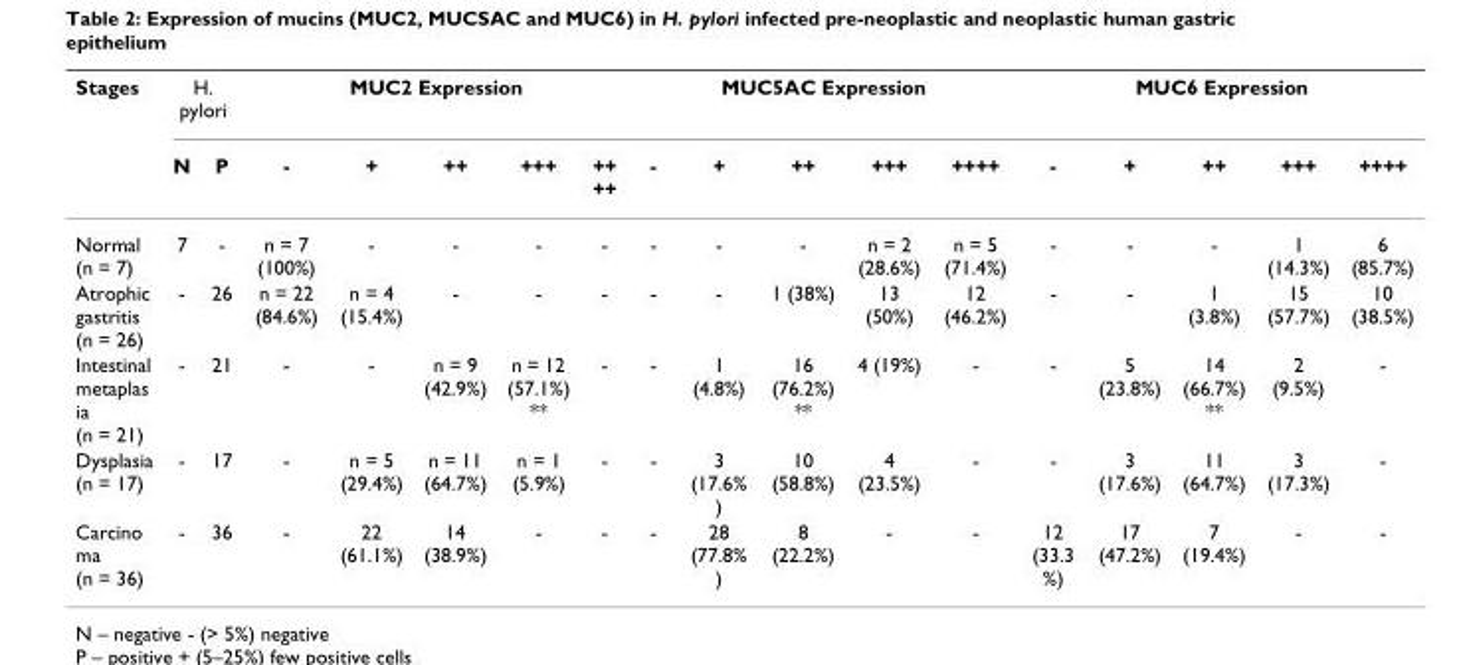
<table><thead><tr><td rowspan="2">Stages</td><td colspan="2">H. pylori</td><td colspan="5">MUC2 Expression</td><td colspan="5">MUC5AC Expression</td><td colspan="5">MUC6 Expression</td></tr><tr><td>N</td><td>P</td><td>-</td><td>+</td><td>++</td><td>+++</td><td>++ ++</td><td>-</td><td>+</td><td>++</td><td>+++</td><td>++++</td><td>-</td><td>+</td><td>++</td><td>+++</td><td>++++</td></tr></thead><tbody><tr><td>Normal (n = 7)</td><td>7</td><td>-</td><td>n = 7 (100%)</td><td>-</td><td>-</td><td>-</td><td>-</td><td>-</td><td>-</td><td>-</td><td>n = 2 (28.6%)</td><td>n = 5 (71.4%)</td><td>-</td><td>-</td><td>-</td><td>1 (14.3%)</td><td>6 (85.7%)</td></tr><tr><td>Atrophic gastritis (n = 26)</td><td>-</td><td>26</td><td>n = 22 (84.6%)</td><td>n = 4 (15.4%)</td><td>-</td><td>-</td><td>-</td><td>-</td><td>-</td><td>1 (38%)</td><td>13 (50%)</td><td>12 (46.2%)</td><td>-</td><td>-</td><td>1 (3.8%)</td><td>15 (57.7%)</td><td>10 (38.5%)</td></tr><tr><td>Intestinal metaplas ia (n = 21)</td><td>-</td><td>21</td><td>-</td><td>-</td><td>n = 9 (42.9%)</td><td>n = 12 (57.1%) **</td><td>-</td><td>-</td><td>1 (4.8%)</td><td>16 (76.2%) **</td><td>4 (19%)</td><td>-</td><td>-</td><td>5 (23.8%)</td><td>14 (66.7%) **</td><td>2 (9.5%)</td><td>-</td></tr><tr><td>Dysplasia (n = 17)</td><td>-</td><td>17</td><td>-</td><td>n = 5 (29.4%)</td><td>n = 11 (64.7%)</td><td>n = 1 (5.9%)</td><td>-</td><td>-</td><td>3 (17.6% )</td><td>10 (58.8%)</td><td>4 (23.5%)</td><td>-</td><td>-</td><td>3 (17.6%)</td><td>11 (64.7%)</td><td>3 (17.3%)</td><td>-</td></tr><tr><td>Carcino ma (n = 36)</td><td>-</td><td>36</td><td>-</td><td>22 (61.1%)</td><td>14 (38.9%)</td><td>-</td><td>-</td><td>-</td><td>28 (77.8% )</td><td>8 (22.2%)</td><td>-</td><td>-</td><td>12 (33.3 %)</td><td>17 (47.2%)</td><td>7 (19.4%)</td><td>-</td><td>-</td></tr></tbody></table>